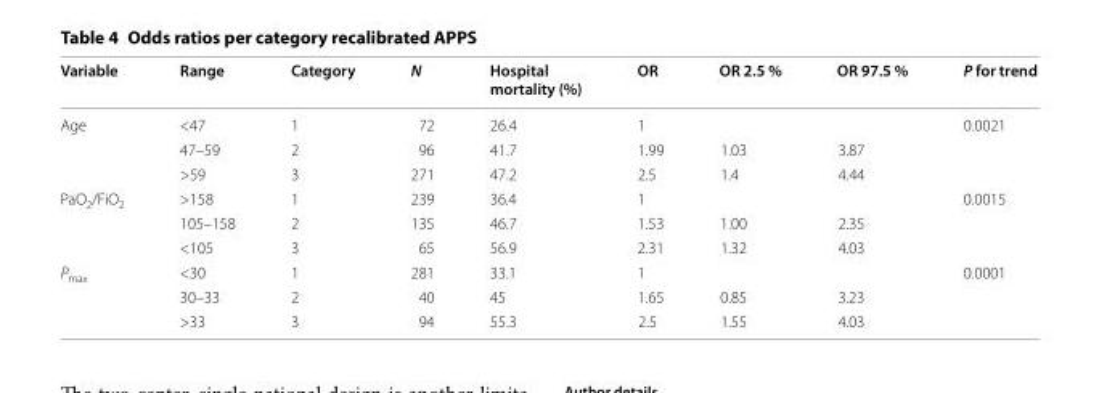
<table><thead><tr><td>Variable</td><td>Range</td><td>Category</td><td>N</td><td>Hospital mortality (%)</td><td>OR</td><td>OR 2.5 %</td><td>OR 97.5 %</td><td>P for trend</td></tr></thead><tbody><tr><td rowspan="3">Age</td><td>&lt;47</td><td>1</td><td>72</td><td>26.4</td><td>1</td><td></td><td></td><td rowspan="3">0.0021</td></tr><tr><td>47–59</td><td>2</td><td>96</td><td>41.7</td><td>1.99</td><td>1.03</td><td>3.87</td></tr><tr><td>&gt;59</td><td>3</td><td>271</td><td>47.2</td><td>2.5</td><td>1.4</td><td>4.44</td></tr><tr><td rowspan="3">PaO<sub>2</sub>/FiO<sub>2</sub></td><td>&gt;158</td><td>1</td><td>239</td><td>36.4</td><td>1</td><td></td><td></td><td rowspan="3">0.0015</td></tr><tr><td>105–158</td><td>2</td><td>135</td><td>46.7</td><td>1.53</td><td>1.00</td><td>2.35</td></tr><tr><td>&lt;105</td><td>3</td><td>65</td><td>56.9</td><td>2.31</td><td>1.32</td><td>4.03</td></tr><tr><td rowspan="3">P<sub>max</sub></td><td>&lt;30</td><td>1</td><td>281</td><td>33.1</td><td>1</td><td></td><td></td><td rowspan="3">0.0001</td></tr><tr><td>30–33</td><td>2</td><td>40</td><td>45</td><td>1.65</td><td>0.85</td><td>3.23</td></tr><tr><td>&gt;33</td><td>3</td><td>94</td><td>55.3</td><td>2.5</td><td>1.55</td><td>4.03</td></tr></tbody></table>